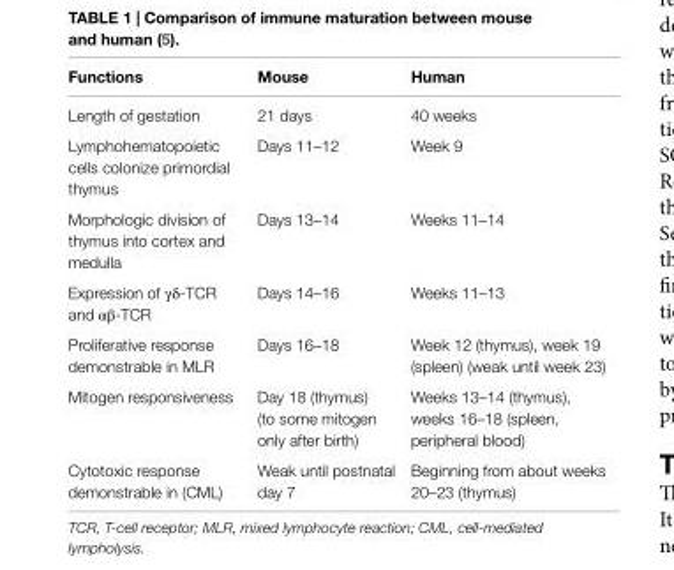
<table><thead><tr><td>Functions</td><td>Mouse</td><td>Human</td></tr></thead><tbody><tr><td>Length of gestation</td><td>21 days</td><td>40 weeks</td></tr><tr><td>Lymphohematopoietic cells colonize primordial thymus</td><td>Days 11–12</td><td>Week 9</td></tr><tr><td>Morphologic division of thymus into cortex and medulla</td><td>Days 13–14</td><td>Weeks 11–14</td></tr><tr><td>Expression of γδ-TCR and αβ-TCR</td><td>Days 14–16</td><td>Weeks 11–13</td></tr><tr><td>Proliferative response demonstrable in MLR</td><td>Days 16–18</td><td>Week 12 (thymus), week 19 (spleen) (weak until week 23)</td></tr><tr><td>Mitogen responsiveness</td><td>Day 18 (thymus) (to some mitogen only after birth)</td><td>Weeks 13–14 (thymus), weeks 16–18 (spleen, peripheral blood)</td></tr><tr><td>Cytotoxic response demonstrable in (CML)</td><td>Weak until postnatal day 7</td><td>Beginning from about weeks 20–23 (thymus)</td></tr></tbody></table>